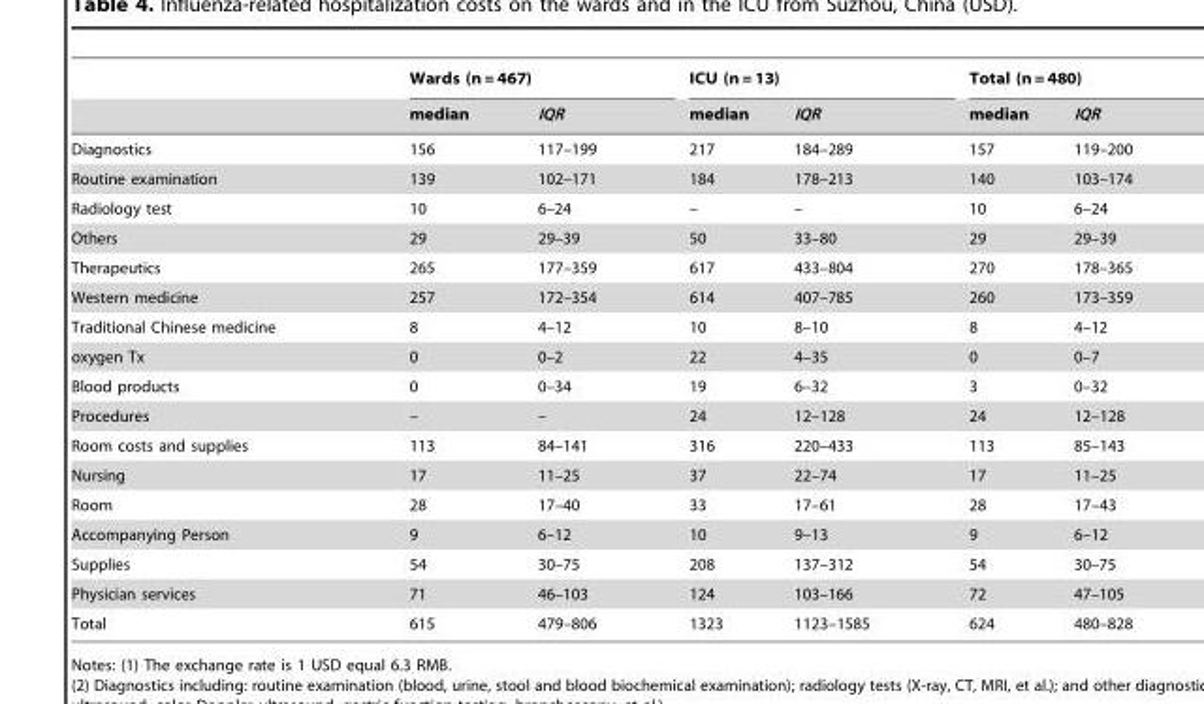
<table><thead><tr><td rowspan="2"></td><td colspan="2">Wards (n = 467)</td><td colspan="2">ICU (n = 13)</td><td colspan="2">Total (n = 480)</td></tr><tr><td>median</td><td>IQR</td><td>median</td><td>IQR</td><td>median</td><td>IQR</td></tr></thead><tbody><tr><td>Diagnostics</td><td>156</td><td>117–199</td><td>217</td><td>184–289</td><td>157</td><td>119–200</td></tr><tr><td>Routine examination</td><td>139</td><td>102–171</td><td>184</td><td>178–213</td><td>140</td><td>103–174</td></tr><tr><td>Radiology test</td><td>10</td><td>6–24</td><td>–</td><td>–</td><td>10</td><td>6–24</td></tr><tr><td>Others</td><td>29</td><td>29–39</td><td>50</td><td>33–80</td><td>29</td><td>29–39</td></tr><tr><td>Therapeutics</td><td>265</td><td>177–359</td><td>617</td><td>433–804</td><td>270</td><td>178–365</td></tr><tr><td>Western medicine</td><td>257</td><td>172–354</td><td>614</td><td>407–785</td><td>260</td><td>173–359</td></tr><tr><td>Traditional Chinese medicine</td><td>8</td><td>4–12</td><td>10</td><td>8–10</td><td>8</td><td>4–12</td></tr><tr><td>oxygen Tx</td><td>0</td><td>0–2</td><td>22</td><td>4–35</td><td>0</td><td>0–7</td></tr><tr><td>Blood products</td><td>0</td><td>0–34</td><td>19</td><td>6–32</td><td>3</td><td>0–32</td></tr><tr><td>Procedures</td><td>–</td><td>–</td><td>24</td><td>12–128</td><td>24</td><td>12–128</td></tr><tr><td>Room costs and supplies</td><td>113</td><td>84–141</td><td>316</td><td>220–433</td><td>113</td><td>85–143</td></tr><tr><td>Nursing</td><td>17</td><td>11–25</td><td>37</td><td>22–74</td><td>17</td><td>11–25</td></tr><tr><td>Room</td><td>28</td><td>17–40</td><td>33</td><td>17–61</td><td>28</td><td>17–43</td></tr><tr><td>Accompanying Person</td><td>9</td><td>6–12</td><td>10</td><td>9–13</td><td>9</td><td>6–12</td></tr><tr><td>Supplies</td><td>54</td><td>30–75</td><td>208</td><td>137–312</td><td>54</td><td>30–75</td></tr><tr><td>Physician services</td><td>71</td><td>46–103</td><td>124</td><td>103–166</td><td>72</td><td>47–105</td></tr><tr><td>Total</td><td>615</td><td>479–806</td><td>1323</td><td>1123–1585</td><td>624</td><td>480–828</td></tr></tbody></table>